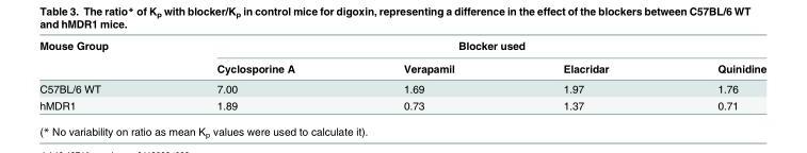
<table><thead><tr><td rowspan="2">Mouse Group</td><td colspan="4">Blocker used</td></tr><tr><td>Cyclosporine A</td><td>Verapamil</td><td>Elacridar</td><td>Quinidine</td></tr></thead><tbody><tr><td>C57BL/6 WT</td><td>7.00</td><td>1.69</td><td>1.97</td><td>1.76</td></tr><tr><td>hMDR1</td><td>1.89</td><td>0.73</td><td>1.37</td><td>0.71</td></tr></tbody></table>